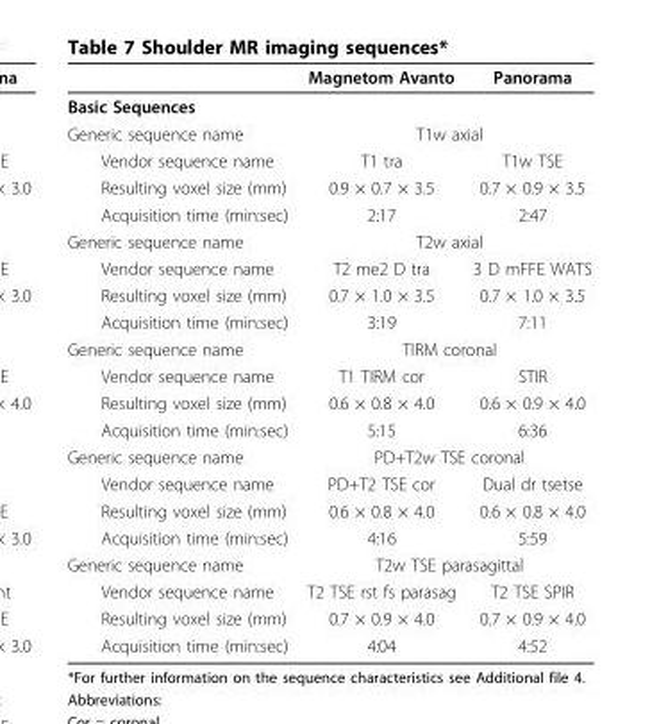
<table><thead><tr><td></td><td>Magnetom Avanto</td><td>Panorama</td></tr></thead><tbody><tr><td colspan="3">Basic Sequences</td></tr><tr><td>Generic sequence name</td><td colspan="2">T1w axial</td></tr><tr><td>Vendor sequence name</td><td>T1 tra</td><td>T1w TSE</td></tr><tr><td>Resulting voxel size (mm)</td><td>0.9 × 0.7 × 3.5</td><td>0.7 × 0.9 × 3.5</td></tr><tr><td>Acquisition time (min:sec)</td><td>2:17</td><td>2:47</td></tr><tr><td>Generic sequence name</td><td colspan="2">T2w axial</td></tr><tr><td>Vendor sequence name</td><td>T2 me2 D tra</td><td>3 D mFFE WATS</td></tr><tr><td>Resulting voxel size (mm)</td><td>0.7 × 1.0 × 3.5</td><td>0.7 × 1.0 × 3.5</td></tr><tr><td>Acquisition time (min:sec)</td><td>3:19</td><td>7:11</td></tr><tr><td>Generic sequence name</td><td colspan="2">TIRM coronal</td></tr><tr><td>Vendor sequence name</td><td>T1 TIRM cor</td><td>STIR</td></tr><tr><td>Resulting voxel size (mm)</td><td>0.6 × 0.8 × 4.0</td><td>0.6 × 0.9 × 4.0</td></tr><tr><td>Acquisition time (min:sec)</td><td>5:15</td><td>6:36</td></tr><tr><td>Generic sequence name</td><td colspan="2">PD+T2w TSE coronal</td></tr><tr><td>Vendor sequence name</td><td>PD+T2 TSE cor</td><td>Dual dr tsetse</td></tr><tr><td>Resulting voxel size (mm)</td><td>0.6 × 0.8 × 4.0</td><td>0.6 × 0.8 × 4.0</td></tr><tr><td>Acquisition time (min:sec)</td><td>4:16</td><td>5:59</td></tr><tr><td>Generic sequence name</td><td colspan="2">T2w TSE parasagittal</td></tr><tr><td>Vendor sequence name</td><td>T2 TSE rst fs parasag</td><td>T2 TSE SPIR</td></tr><tr><td>Resulting voxel size (mm)</td><td>0.7 × 0.9 × 4.0</td><td>0.7 × 0.9 × 4.0</td></tr><tr><td>Acquisition time (min:sec)</td><td>4:04</td><td>4:52</td></tr></tbody></table>